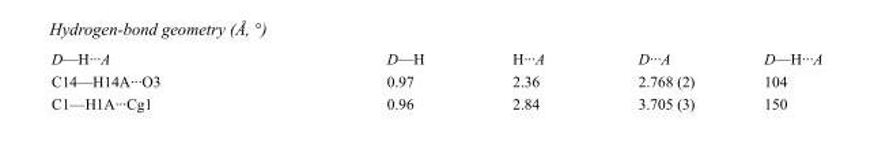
<table><tbody><tr><td>D—H···A</td><td>D—H</td><td>H···A</td><td>D···A</td><td>D—H···A</td></tr><tr><td>C14—H14A···O3</td><td>0.97</td><td>2.36</td><td>2.768 (2)</td><td>104</td></tr><tr><td>C1—H1A···Cg1</td><td>0.96</td><td>2.84</td><td>3.705 (3)</td><td>150</td></tr></tbody></table>